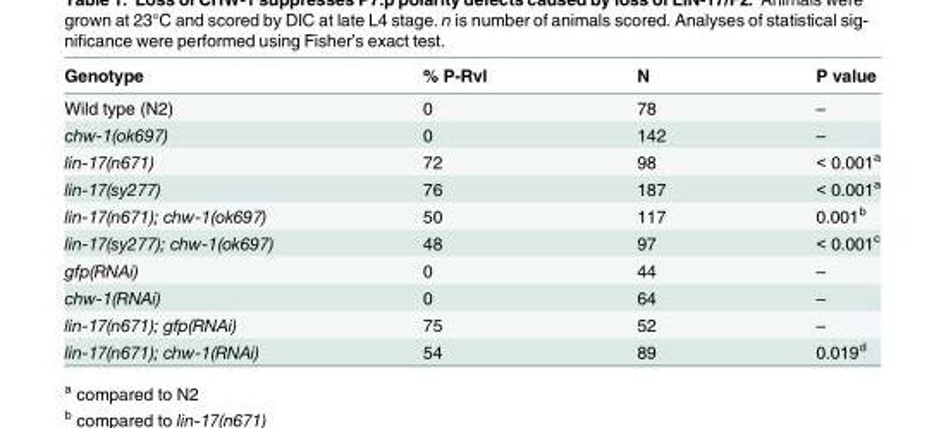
<table><thead><tr><td>Genotype</td><td>% P-Rvl</td><td>N</td><td>P value</td></tr></thead><tbody><tr><td>Wild type (N2)</td><td>0</td><td>78</td><td>–</td></tr><tr><td>chw-1(ok697)</td><td>0</td><td>142</td><td>–</td></tr><tr><td>lin-17(n671)</td><td>72</td><td>98</td><td>&lt; 0.001<sup>a</sup></td></tr><tr><td>lin-17(sy277)</td><td>76</td><td>187</td><td>&lt; 0.001<sup>a</sup></td></tr><tr><td>lin-17(n671); chw-1(ok697)</td><td>50</td><td>117</td><td>0.001<sup>b</sup></td></tr><tr><td>lin-17(sy277); chw-1(ok697)</td><td>48</td><td>97</td><td>&lt; 0.001<sup>c</sup></td></tr><tr><td>gfp(RNAi)</td><td>0</td><td>44</td><td>–</td></tr><tr><td>chw-1(RNAi)</td><td>0</td><td>64</td><td>–</td></tr><tr><td>lin-17(n671); gfp(RNAi)</td><td>75</td><td>52</td><td>–</td></tr><tr><td>lin-17(n671); chw-1(RNAi)</td><td>54</td><td>89</td><td>0.019<sup>d</sup></td></tr></tbody></table>